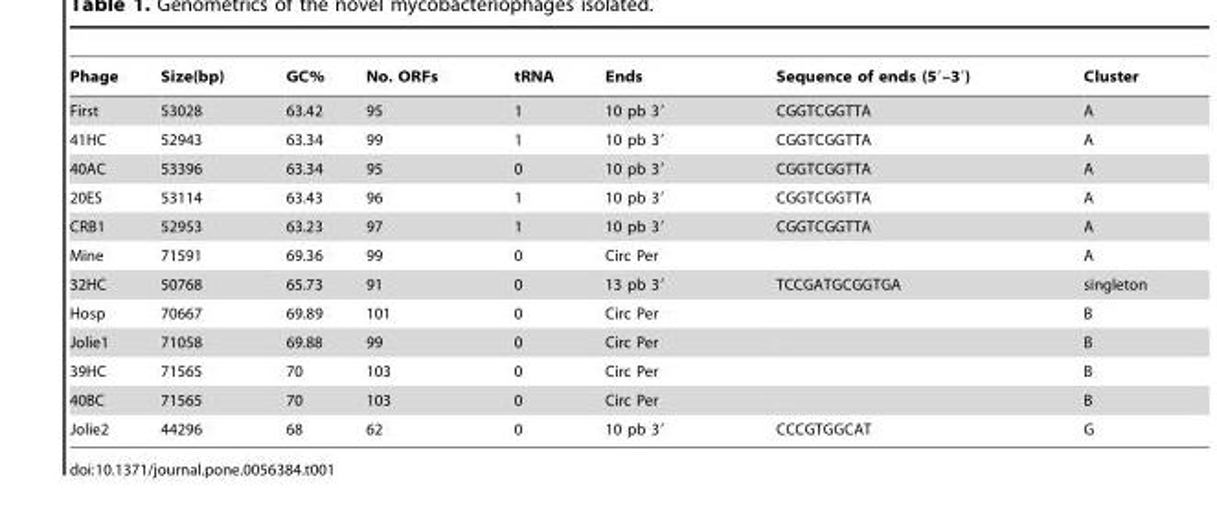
<table><thead><tr><td>Phage</td><td>Size(bp)</td><td>GC%</td><td>No. ORFs</td><td>tRNA</td><td>Ends</td><td>Sequence of ends (5′–3′)</td><td>Cluster</td></tr></thead><tbody><tr><td>First</td><td>53028</td><td>63.42</td><td>95</td><td>1</td><td>10 pb 3′</td><td>CGGTCGGTTA</td><td>A</td></tr><tr><td>41HC</td><td>52943</td><td>63.34</td><td>99</td><td>1</td><td>10 pb 3′</td><td>CGGTCGGTTA</td><td>A</td></tr><tr><td>40AC</td><td>53396</td><td>63.34</td><td>95</td><td>0</td><td>10 pb 3′</td><td>CGGTCGGTTA</td><td>A</td></tr><tr><td>20ES</td><td>53114</td><td>63.43</td><td>96</td><td>1</td><td>10 pb 3′</td><td>CGGTCGGTTA</td><td>A</td></tr><tr><td>CRB1</td><td>52953</td><td>63.23</td><td>97</td><td>1</td><td>10 pb 3′</td><td>CGGTCGGTTA</td><td>A</td></tr><tr><td>Mine</td><td>71591</td><td>69.36</td><td>99</td><td>0</td><td>Circ Per</td><td></td><td>A</td></tr><tr><td>32HC</td><td>50768</td><td>65.73</td><td>91</td><td>0</td><td>13 pb 3′</td><td>TCCGATGCGGTGA</td><td>singleton</td></tr><tr><td>Hosp</td><td>70667</td><td>69.89</td><td>101</td><td>0</td><td>Circ Per</td><td></td><td>B</td></tr><tr><td>Jolie1</td><td>71058</td><td>69.88</td><td>99</td><td>0</td><td>Circ Per</td><td></td><td>B</td></tr><tr><td>39HC</td><td>71565</td><td>70</td><td>103</td><td>0</td><td>Circ Per</td><td></td><td>B</td></tr><tr><td>40BC</td><td>71565</td><td>70</td><td>103</td><td>0</td><td>Circ Per</td><td></td><td>B</td></tr><tr><td>Jolie2</td><td>44296</td><td>68</td><td>62</td><td>0</td><td>10 pb 3′</td><td>CCCGTGGCAT</td><td>G</td></tr></tbody></table>